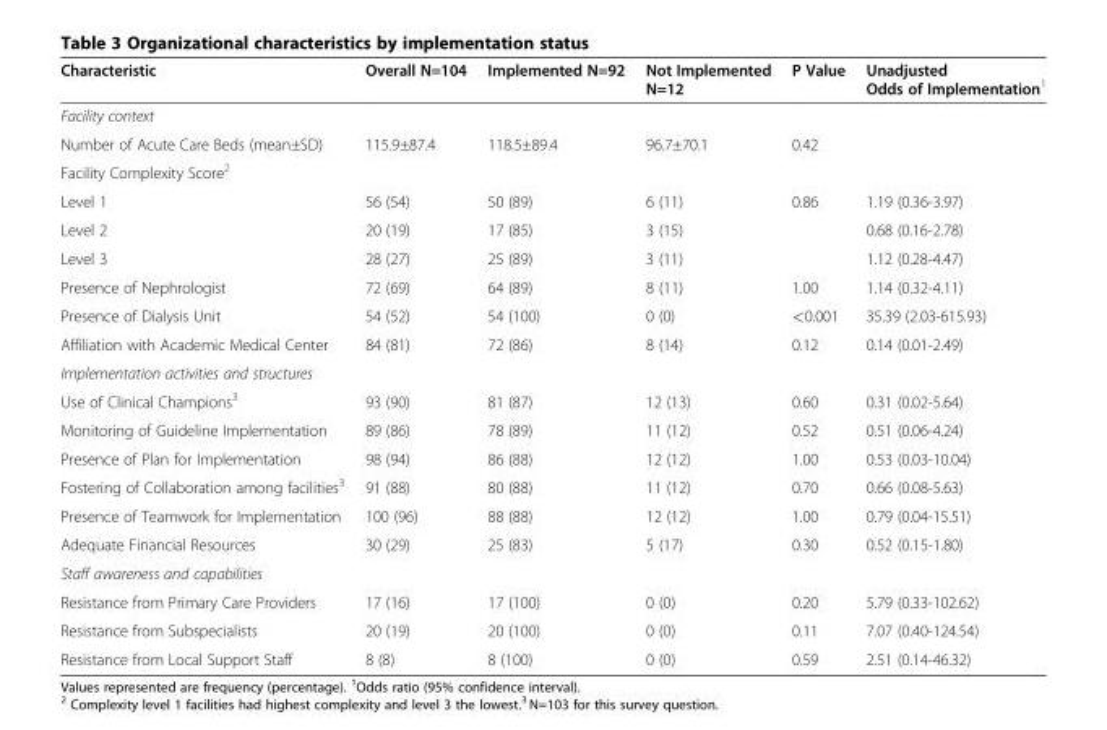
<table><thead><tr><td>Characteristic</td><td>Overall N=104</td><td>Implemented N=92</td><td>Not Implemented N=12</td><td>P Value</td><td>Unadjusted Odds of Implementation<sup>1</sup></td></tr></thead><tbody><tr><td colspan="6">Facility context</td></tr><tr><td>Number of Acute Care Beds (mean±SD)</td><td>115.9±87.4</td><td>118.5±89.4</td><td>96.7±70.1</td><td>0.42</td><td></td></tr><tr><td colspan="6">Facility Complexity Score<sup>2</sup></td></tr><tr><td>Level 1</td><td>56 (54)</td><td>50 (89)</td><td>6 (11)</td><td>0.86</td><td>1.19 (0.36-3.97)</td></tr><tr><td>Level 2</td><td>20 (19)</td><td>17 (85)</td><td>3 (15)</td><td></td><td>0.68 (0.16-2.78)</td></tr><tr><td>Level 3</td><td>28 (27)</td><td>25 (89)</td><td>3 (11)</td><td></td><td>1.12 (0.28-4.47)</td></tr><tr><td>Presence of Nephrologist</td><td>72 (69)</td><td>64 (89)</td><td>8 (11)</td><td>1.00</td><td>1.14 (0.32-4.11)</td></tr><tr><td>Presence of Dialysis Unit</td><td>54 (52)</td><td>54 (100)</td><td>0 (0)</td><td>&lt;0.001</td><td>35.39 (2.03-615.93)</td></tr><tr><td>Affiliation with Academic Medical Center</td><td>84 (81)</td><td>72 (86)</td><td>8 (14)</td><td>0.12</td><td>0.14 (0.01-2.49)</td></tr><tr><td colspan="6">Implementation activities and structures</td></tr><tr><td>Use of Clinical Champions<sup>3</sup></td><td>93 (90)</td><td>81 (87)</td><td>12 (13)</td><td>0.60</td><td>0.31 (0.02-5.64)</td></tr><tr><td>Monitoring of Guideline Implementation</td><td>89 (86)</td><td>78 (89)</td><td>11 (12)</td><td>0.52</td><td>0.51 (0.06-4.24)</td></tr><tr><td>Presence of Plan for Implementation</td><td>98 (94)</td><td>86 (88)</td><td>12 (12)</td><td>1.00</td><td>0.53 (0.03-10.04)</td></tr><tr><td>Fostering of Collaboration among facilities<sup>3</sup></td><td>91 (88)</td><td>80 (88)</td><td>11 (12)</td><td>0.70</td><td>0.66 (0.08-5.63)</td></tr><tr><td>Presence of Teamwork for Implementation</td><td>100 (96)</td><td>88 (88)</td><td>12 (12)</td><td>1.00</td><td>0.79 (0.04-15.51)</td></tr><tr><td>Adequate Financial Resources</td><td>30 (29)</td><td>25 (83)</td><td>5 (17)</td><td>0.30</td><td>0.52 (0.15-1.80)</td></tr><tr><td colspan="6">Staff awareness and capabilities</td></tr><tr><td>Resistance from Primary Care Providers</td><td>17 (16)</td><td>17 (100)</td><td>0 (0)</td><td>0.20</td><td>5.79 (0.33-102.62)</td></tr><tr><td>Resistance from Subspecialists</td><td>20 (19)</td><td>20 (100)</td><td>0 (0)</td><td>0.11</td><td>7.07 (0.40-124.54)</td></tr><tr><td>Resistance from Local Support Staff</td><td>8 (8)</td><td>8 (100)</td><td>0 (0)</td><td>0.59</td><td>2.51 (0.14-46.32)</td></tr></tbody></table>